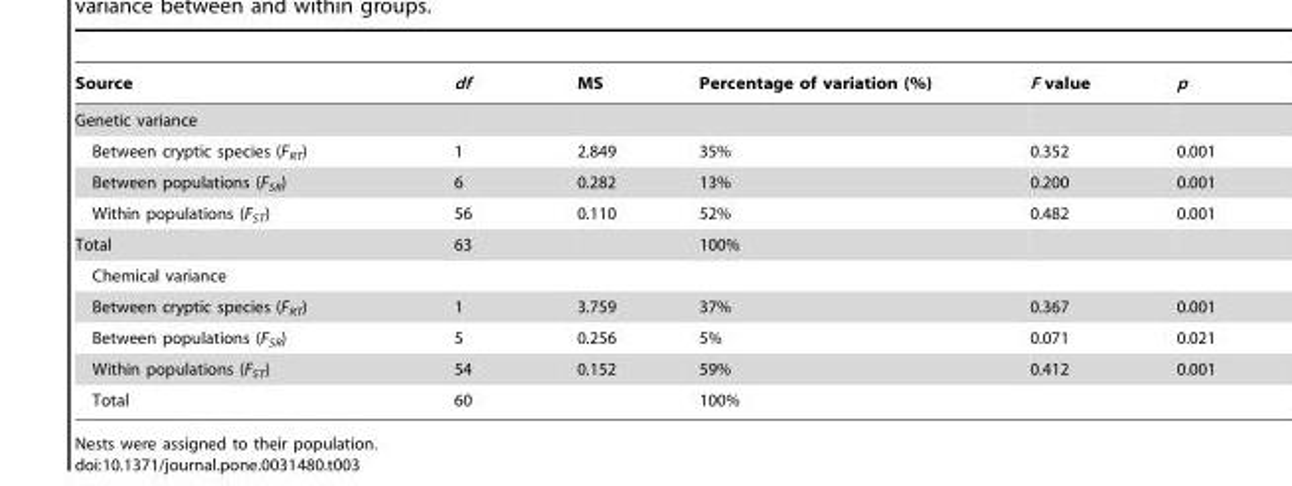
<table><thead><tr><td>Source</td><td>df</td><td>MS</td><td>Percentage of variation (%)</td><td>F value</td><td>p</td></tr></thead><tbody><tr><td colspan="6">Genetic variance</td></tr><tr><td>Between cryptic species (F<sub>RT</sub>)</td><td>1</td><td>2.849</td><td>35%</td><td>0.352</td><td>0.001</td></tr><tr><td>Between populations (F<sub>SR</sub>)</td><td>6</td><td>0.282</td><td>13%</td><td>0.200</td><td>0.001</td></tr><tr><td>Within populations (F<sub>ST</sub>)</td><td>56</td><td>0.110</td><td>52%</td><td>0.482</td><td>0.001</td></tr><tr><td>Total</td><td>63</td><td></td><td>100%</td><td></td><td></td></tr><tr><td colspan="6">Chemical variance</td></tr><tr><td>Between cryptic species (F<sub>RT</sub>)</td><td>1</td><td>3.759</td><td>37%</td><td>0.367</td><td>0.001</td></tr><tr><td>Between populations (F<sub>SR</sub>)</td><td>5</td><td>0.256</td><td>5%</td><td>0.071</td><td>0.021</td></tr><tr><td>Within populations (F<sub>ST</sub>)</td><td>54</td><td>0.152</td><td>59%</td><td>0.412</td><td>0.001</td></tr><tr><td>Total</td><td>60</td><td></td><td>100%</td><td></td><td></td></tr></tbody></table>